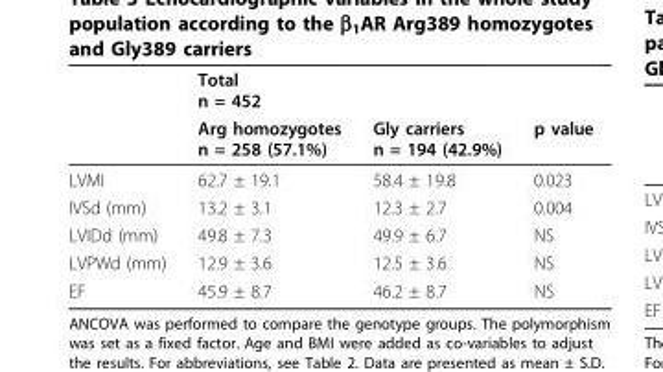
<table><thead><tr><td rowspan="2"></td><td colspan="2">Total n = 452</td><td rowspan="2">p value</td></tr><tr><td>Arg homozygotes n = 258 (57.1%)</td><td>Gly carriers n = 194 (42.9%)</td></tr></thead><tbody><tr><td>LVMI</td><td>62.7 ± 19.1</td><td>58.4 ± 19.8</td><td>0.023</td></tr><tr><td>IVSd (mm)</td><td>13.2 ± 3.1</td><td>12.3 ± 2.7</td><td>0.004</td></tr><tr><td>LVIDd (mm)</td><td>49.8 ± 7.3</td><td>49.9 ± 6.7</td><td>NS</td></tr><tr><td>LVPWd (mm)</td><td>12.9 ± 3.6</td><td>12.5 ± 3.6</td><td>NS</td></tr><tr><td>EF</td><td>45.9 ± 8.7</td><td>46.2 ± 8.7</td><td>NS</td></tr></tbody></table>